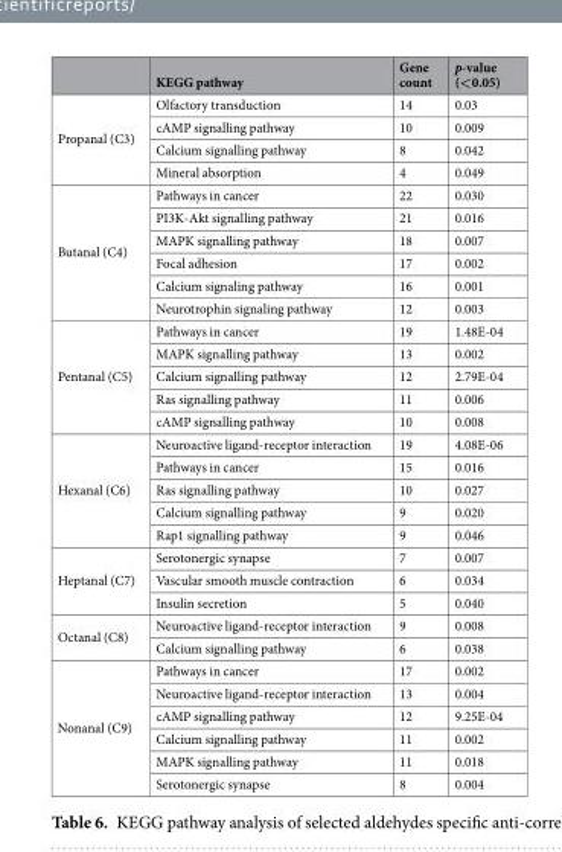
<table><thead><tr><td></td><td>KEGG pathway</td><td>Gene count</td><td>p-value (&lt;0.05)</td></tr></thead><tbody><tr><td rowspan="4">Propanal (C3)</td><td>Olfactory transduction</td><td>14</td><td>0.03</td></tr><tr><td>cAMP signalling pathway</td><td>10</td><td>0.009</td></tr><tr><td>Calcium signalling pathway</td><td>8</td><td>0.042</td></tr><tr><td>Mineral absorption</td><td>4</td><td>0.049</td></tr><tr><td rowspan="6">Butanal (C4)</td><td>Pathways in cancer</td><td>22</td><td>0.030</td></tr><tr><td>PI3K-Akt signalling pathway</td><td>21</td><td>0.016</td></tr><tr><td>MAPK signalling pathway</td><td>18</td><td>0.007</td></tr><tr><td>Focal adhesion</td><td>17</td><td>0.002</td></tr><tr><td>Calcium signaling pathway</td><td>16</td><td>0.001</td></tr><tr><td>Neurotrophin signaling pathway</td><td>12</td><td>0.003</td></tr><tr><td rowspan="5">Pentanal (C5)</td><td>Pathways in cancer</td><td>19</td><td>1.48E-04</td></tr><tr><td>MAPK signalling pathway</td><td>13</td><td>0.002</td></tr><tr><td>Calcium signalling pathway</td><td>12</td><td>2.79E-04</td></tr><tr><td>Ras signalling pathway</td><td>11</td><td>0.006</td></tr><tr><td>cAMP signalling pathway</td><td>10</td><td>0.008</td></tr><tr><td rowspan="5">Hexanal (C6)</td><td>Neuroactive ligand-receptor interaction</td><td>19</td><td>4.08E-06</td></tr><tr><td>Pathways in cancer</td><td>15</td><td>0.016</td></tr><tr><td>Ras signalling pathway</td><td>10</td><td>0.027</td></tr><tr><td>Calcium signalling pathway</td><td>9</td><td>0.020</td></tr><tr><td>Rap1 signalling pathway</td><td>9</td><td>0.046</td></tr><tr><td rowspan="3">Heptanal (C7)</td><td>Serotonergic synapse</td><td>7</td><td>0.007</td></tr><tr><td>Vascular smooth muscle contraction</td><td>6</td><td>0.034</td></tr><tr><td>Insulin secretion</td><td>5</td><td>0.040</td></tr><tr><td rowspan="2">Octanal (C8)</td><td>Neuroactive ligand-receptor interaction</td><td>9</td><td>0.008</td></tr><tr><td>Calcium signalling pathway</td><td>6</td><td>0.038</td></tr><tr><td rowspan="6">Nonanal (C9)</td><td>Pathways in cancer</td><td>17</td><td>0.002</td></tr><tr><td>Neuroactive ligand-receptor interaction</td><td>13</td><td>0.004</td></tr><tr><td>cAMP signalling pathway</td><td>12</td><td>9.25E-04</td></tr><tr><td>Calcium signalling pathway</td><td>11</td><td>0.002</td></tr><tr><td>MAPK signalling pathway</td><td>11</td><td>0.018</td></tr><tr><td>Serotonergic synapse</td><td>8</td><td>0.004</td></tr></tbody></table>